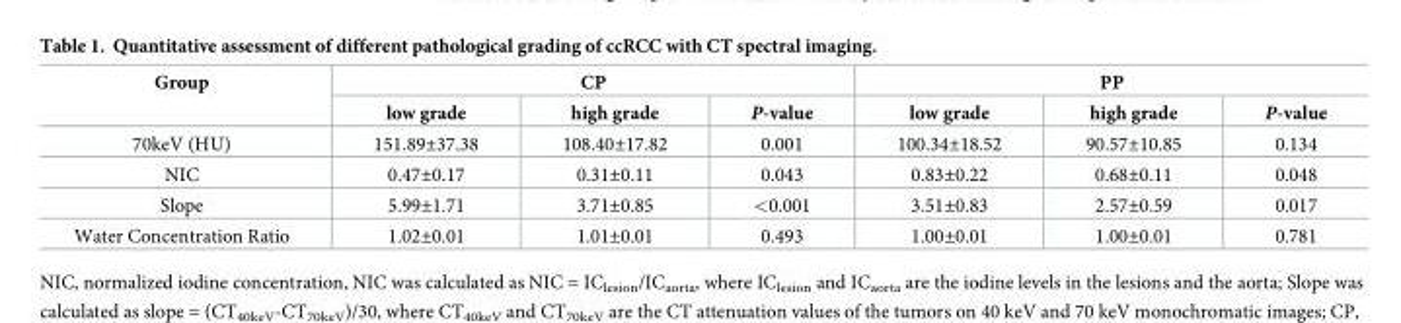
<table><thead><tr><td rowspan="2">Group</td><td colspan="3">CP</td><td colspan="3">PP</td></tr><tr><td>low grade</td><td>high grade</td><td>P-value</td><td>low grade</td><td>high grade</td><td>P-value</td></tr></thead><tbody><tr><td>70keV (HU)</td><td>151.89±37.38</td><td>108.40±17.82</td><td>0.001</td><td>100.34±18.52</td><td>90.57±10.85</td><td>0.134</td></tr><tr><td>NIC</td><td>0.47±0.17</td><td>0.31±0.11</td><td>0.043</td><td>0.83±0.22</td><td>0.68±0.11</td><td>0.048</td></tr><tr><td>Slope</td><td>5.99±1.71</td><td>3.71±0.85</td><td>&lt;0.001</td><td>3.51±0.83</td><td>2.57±0.59</td><td>0.017</td></tr><tr><td>Water Concentration Ratio</td><td>1.02±0.01</td><td>1.01±0.01</td><td>0.493</td><td>1.00±0.01</td><td>1.00±0.01</td><td>0.781</td></tr></tbody></table>